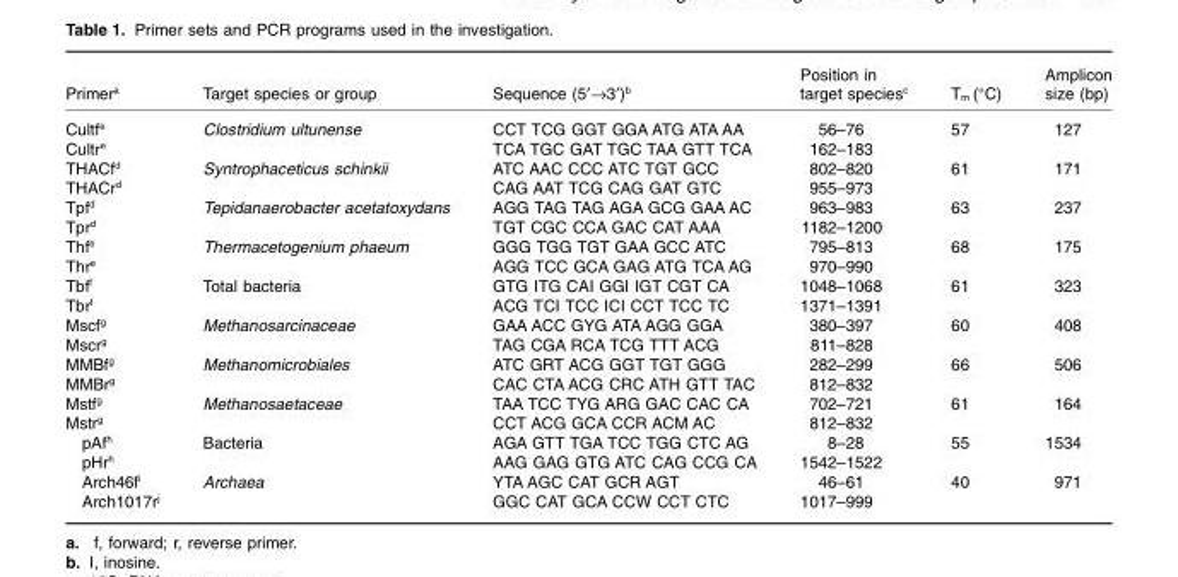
<table><thead><tr><td>Primer<sup>a</sup></td><td>Target species or group</td><td>Sequence (5′→3′)<sup>b</sup></td><td>Position in target species<sup>c</sup></td><td>T<sub>m</sub> (°C)</td><td>Amplicon size (bp)</td></tr></thead><tbody><tr><td>Cultf<sup>e</sup></td><td rowspan="2">Clostridium ultunense</td><td>CCT TCG GGT GGA ATG ATA AA</td><td>56–76</td><td rowspan="2">57</td><td rowspan="2">127</td></tr><tr><td>Cultr<sup>e</sup></td><td>TCA TGC GAT TGC TAA GTT TCA</td><td>162–183</td></tr><tr><td>THACf<sup>d</sup></td><td rowspan="2">Syntrophaceticus schinkii</td><td>ATC AAC CCC ATC TGT GCC</td><td>802–820</td><td rowspan="2">61</td><td rowspan="2">171</td></tr><tr><td>THACr<sup>d</sup></td><td>CAG AAT TCG CAG GAT GTC</td><td>955–973</td></tr><tr><td>Tpf<sup>d</sup></td><td rowspan="2">Tepidanaerobacter acetatoxydans</td><td>AGG TAG TAG AGA GCG GAA AC</td><td>963–983</td><td rowspan="2">63</td><td rowspan="2">237</td></tr><tr><td>Tpr<sup>d</sup></td><td>TGT CGC CCA GAC CAT AAA</td><td>1182–1200</td></tr><tr><td>Thf<sup>e</sup></td><td rowspan="2">Thermacetogenium phaeum</td><td>GGG TGG TGT GAA GCC ATC</td><td>795–813</td><td rowspan="2">68</td><td rowspan="2">175</td></tr><tr><td>Thr<sup>e</sup></td><td>AGG TCC GCA GAG ATG TCA AG</td><td>970–990</td></tr><tr><td>Tbf<sup>f</sup></td><td rowspan="2">Total bacteria</td><td>GTG ITG CAI GGI IGT CGT CA</td><td>1048–1068</td><td rowspan="2">61</td><td rowspan="2">323</td></tr><tr><td>Tbr<sup>f</sup></td><td>ACG TCI TCC ICI CCT TCC TC</td><td>1371–1391</td></tr><tr><td>Mscf<sup>g</sup></td><td rowspan="2">Methanosarcinaceae</td><td>GAA ACC GYG ATA AGG GGA</td><td>380–397</td><td rowspan="2">60</td><td rowspan="2">408</td></tr><tr><td>Mscr<sup>g</sup></td><td>TAG CGA RCA TCG TTT ACG</td><td>811–828</td></tr><tr><td>MMBf<sup>g</sup></td><td rowspan="2">Methanomicrobiales</td><td>ATC GRT ACG GGT TGT GGG</td><td>282–299</td><td rowspan="2">66</td><td rowspan="2">506</td></tr><tr><td>MMBr<sup>g</sup></td><td>CAC CTA ACG CRC ATH GTT TAC</td><td>812–832</td></tr><tr><td>Mstf<sup>g</sup></td><td rowspan="2">Methanosaetaceae</td><td>TAA TCC TYG ARG GAC CAC CA</td><td>702–721</td><td rowspan="2">61</td><td rowspan="2">164</td></tr><tr><td>Mstr<sup>g</sup></td><td>CCT ACG GCA CCR ACM AC</td><td>812–832</td></tr><tr><td>pAf<sup>h</sup></td><td rowspan="2">Bacteria</td><td>AGA GTT TGA TCC TGG CTC AG</td><td>8–28</td><td rowspan="2">55</td><td rowspan="2">1534</td></tr><tr><td>pHr<sup>h</sup></td><td>AAG GAG GTG ATC CAG CCG CA</td><td>1542–1522</td></tr><tr><td>Arch46f<sup>i</sup></td><td rowspan="2">Archaea</td><td>YTA AGC CAT GCR AGT</td><td>46–61</td><td rowspan="2">40</td><td rowspan="2">971</td></tr><tr><td>Arch1017r<sup>j</sup></td><td>GGC CAT GCA CCW CCT CTC</td><td>1017–999</td></tr></tbody></table>